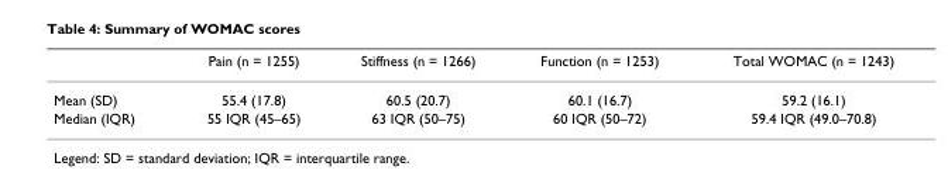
<table><thead><tr><td></td><td>Pain (n = 1255)</td><td>Stiffness (n = 1266)</td><td>Function (n = 1253)</td><td>Total WOMAC (n = 1243)</td></tr></thead><tbody><tr><td>Mean (SD)</td><td>55.4 (17.8)</td><td>60.5 (20.7)</td><td>60.1 (16.7)</td><td>59.2 (16.1)</td></tr><tr><td>Median (IQR)</td><td>55 IQR (45–65)</td><td>63 IQR (50–75)</td><td>60 IQR (50–72)</td><td>59.4 IQR (49.0–70.8)</td></tr></tbody></table>